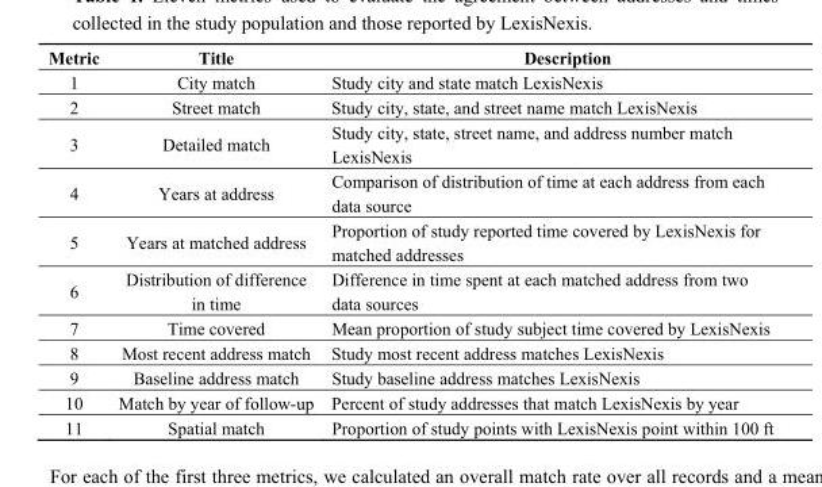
<table><thead><tr><td>Metric</td><td>Title</td><td>Description</td></tr></thead><tbody><tr><td>1</td><td>City match</td><td>Study city and state match LexisNexis</td></tr><tr><td>2</td><td>Street match</td><td>Study city, state, and street name match LexisNexis</td></tr><tr><td>3</td><td>Detailed match</td><td>Study city, state, street name, and address number match LexisNexis</td></tr><tr><td>4</td><td>Years at address</td><td>Comparison of distribution of time at each address from each data source</td></tr><tr><td>5</td><td>Years at matched address</td><td>Proportion of study reported time covered by LexisNexis for matched addresses</td></tr><tr><td>6</td><td>Distribution of difference in time</td><td>Difference in time spent at each matched address from two data sources</td></tr><tr><td>7</td><td>Time covered</td><td>Mean proportion of study subject time covered by LexisNexis</td></tr><tr><td>8</td><td>Most recent address match</td><td>Study most recent address matches LexisNexis</td></tr><tr><td>9</td><td>Baseline address match</td><td>Study baseline address matches LexisNexis</td></tr><tr><td>10</td><td>Match by year of follow-up</td><td>Percent of study addresses that match LexisNexis by year</td></tr><tr><td>11</td><td>Spatial match</td><td>Proportion of study points with LexisNexis point within 100 ft</td></tr></tbody></table>